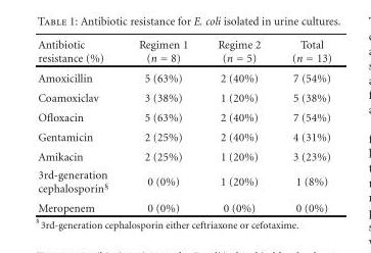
<table><thead><tr><td>Antibiotic resistance (%)</td><td>Regimen 1 (n = 8)</td><td>Regime 2 (n = 5)</td><td>Total (n = 13)</td></tr></thead><tbody><tr><td>Amoxicillin</td><td>5 (63%)</td><td>2 (40%)</td><td>7 (54%)</td></tr><tr><td>Coamoxiclav</td><td>3 (38%)</td><td>1 (20%)</td><td>5 (38%)</td></tr><tr><td>Ofloxacin</td><td>5 (63%)</td><td>2 (40%)</td><td>7 (54%)</td></tr><tr><td>Gentamicin</td><td>2 (25%)</td><td>2 (40%)</td><td>4 (31%)</td></tr><tr><td>Amikacin</td><td>2 (25%)</td><td>1 (20%)</td><td>3 (23%)</td></tr><tr><td>3rd-generation cephalosporin<sup>§</sup></td><td>0 (0%)</td><td>1 (20%)</td><td>1 (8%)</td></tr><tr><td>Meropenem</td><td>0 (0%)</td><td>0 (0%)</td><td>0 (0%)</td></tr></tbody></table>